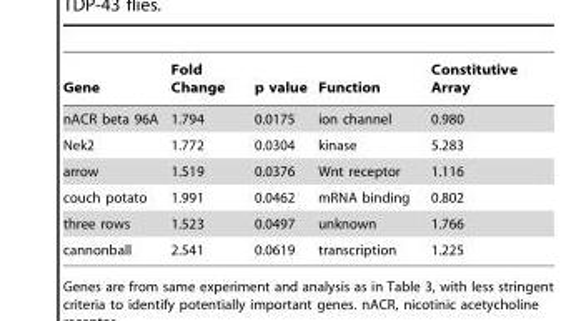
<table><thead><tr><td>Gene</td><td>Fold Change</td><td>p value</td><td>Function</td><td>Constitutive Array</td></tr></thead><tbody><tr><td>nACR beta 96A</td><td>1.794</td><td>0.0175</td><td>ion channel</td><td>0.980</td></tr><tr><td>Nek2</td><td>1.772</td><td>0.0304</td><td>kinase</td><td>5.283</td></tr><tr><td>arrow</td><td>1.519</td><td>0.0376</td><td>Wnt receptor</td><td>1.116</td></tr><tr><td>couch potato</td><td>1.991</td><td>0.0462</td><td>mRNA binding</td><td>0.802</td></tr><tr><td>three rows</td><td>1.523</td><td>0.0497</td><td>unknown</td><td>1.766</td></tr><tr><td>cannonball</td><td>2.541</td><td>0.0619</td><td>transcription</td><td>1.225</td></tr></tbody></table>